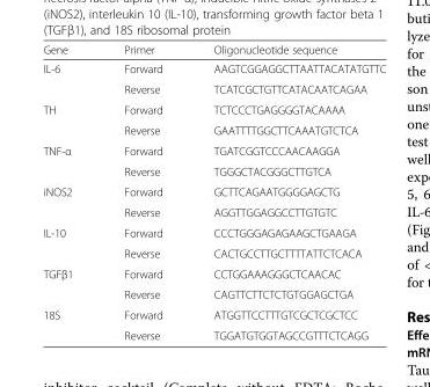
<table><thead><tr><td>Gene</td><td>Primer</td><td>Oligonucleotide sequence</td></tr></thead><tbody><tr><td rowspan="2">IL-6</td><td>Forward</td><td>AAGTCGGAGGCTTAATTACATATGTTC</td></tr><tr><td>Reverse</td><td>TCATCGCTGTTCATACAATCAGAA</td></tr><tr><td rowspan="2">TH</td><td>Forward</td><td>TCTCCCTGAGGGGTACAAAA</td></tr><tr><td>Reverse</td><td>GAATTTTGGCTTCAAATGTCTCA</td></tr><tr><td rowspan="2">TNF-α</td><td>Forward</td><td>TGATCGGTCCCAACAAGGA</td></tr><tr><td>Reverse</td><td>TGGGCTACGGGCTTGTCA</td></tr><tr><td rowspan="2">iNOS2</td><td>Forward</td><td>GCTTCAGAATGGGGAGCTG</td></tr><tr><td>Reverse</td><td>AGGTTGGAGGCCTTGTGTC</td></tr><tr><td rowspan="2">IL-10</td><td>Forward</td><td>CCCTGGGAGAGAAGCTGAAGA</td></tr><tr><td>Reverse</td><td>CACTGCCTTGCTTTTATTCTCACA</td></tr><tr><td rowspan="2">TGFβ1</td><td>Forward</td><td>CCTGGAAAGGGCTCAACAC</td></tr><tr><td>Reverse</td><td>CAGTTCTTCTCTGTGGAGCTGA</td></tr><tr><td rowspan="2">18S</td><td>Forward</td><td>ATGGTTCCTTTGTCGCTCGCTCC</td></tr><tr><td>Reverse</td><td>TGGATGTGGTAGCCGTTTCTCAGG</td></tr></tbody></table>